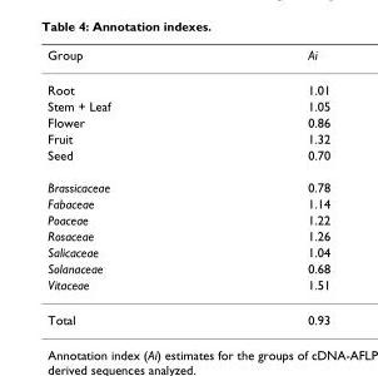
<table><thead><tr><td>Group</td><td>Ai</td></tr></thead><tbody><tr><td>Root</td><td>1.01</td></tr><tr><td>Stem + Leaf</td><td>1.05</td></tr><tr><td>Flower</td><td>0.86</td></tr><tr><td>Fruit</td><td>1.32</td></tr><tr><td>Seed</td><td>0.70</td></tr><tr><td>Brassicaceae</td><td>0.78</td></tr><tr><td>Fabaceae</td><td>1.14</td></tr><tr><td>Poaceae</td><td>1.22</td></tr><tr><td>Rosaceae</td><td>1.26</td></tr><tr><td>Salicaceae</td><td>1.04</td></tr><tr><td>Solanaceae</td><td>0.68</td></tr><tr><td>Vitaceae</td><td>1.51</td></tr><tr><td>Total</td><td>0.93</td></tr></tbody></table>